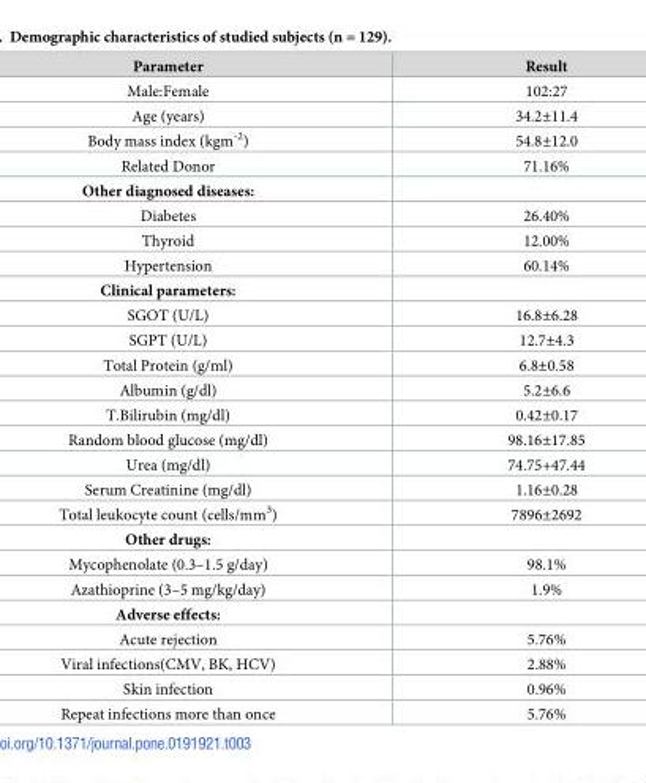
<table><thead><tr><td>Parameter</td><td>Result</td></tr></thead><tbody><tr><td>Male:Female</td><td>102:27</td></tr><tr><td>Age (years)</td><td>34.2±11.4</td></tr><tr><td>Body mass index (kgm<sup>-2</sup>)</td><td>54.8±12.0</td></tr><tr><td>Related Donor</td><td>71.16%</td></tr><tr><td colspan="2">Other diagnosed diseases:</td></tr><tr><td>Diabetes</td><td>26.40%</td></tr><tr><td>Thyroid</td><td>12.00%</td></tr><tr><td>Hypertension</td><td>60.14%</td></tr><tr><td colspan="2">Clinical parameters:</td></tr><tr><td>SGOT (U/L)</td><td>16.8±6.28</td></tr><tr><td>SGPT (U/L)</td><td>12.7±4.3</td></tr><tr><td>Total Protein (g/ml)</td><td>6.8±0.58</td></tr><tr><td>Albumin (g/dl)</td><td>5.2±6.6</td></tr><tr><td>T.Bilirubin (mg/dl)</td><td>0.42±0.17</td></tr><tr><td>Random blood glucose (mg/dl)</td><td>98.16±17.85</td></tr><tr><td>Urea (mg/dl)</td><td>74.75+47.44</td></tr><tr><td>Serum Creatinine (mg/dl)</td><td>1.16±0.28</td></tr><tr><td>Total leukocyte count (cells/mm<sup>3</sup>)</td><td>7896±2692</td></tr><tr><td colspan="2">Other drugs:</td></tr><tr><td>Mycophenolate (0.3–1.5 g/day)</td><td>98.1%</td></tr><tr><td>Azathioprine (3–5 mg/kg/day)</td><td>1.9%</td></tr><tr><td colspan="2">Adverse effects:</td></tr><tr><td>Acute rejection</td><td>5.76%</td></tr><tr><td>Viral infections(CMV, BK, HCV)</td><td>2.88%</td></tr><tr><td>Skin infection</td><td>0.96%</td></tr><tr><td>Repeat infections more than once</td><td>5.76%</td></tr></tbody></table>